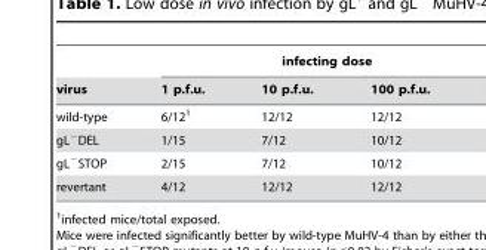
<table><thead><tr><td rowspan="2">virus</td><td colspan="3">infecting dose</td></tr><tr><td>1 p.f.u.</td><td>10 p.f.u.</td><td>100 p.f.u.</td></tr></thead><tbody><tr><td>wild-type</td><td>6/12<sup>1</sup></td><td>12/12</td><td>12/12</td></tr><tr><td>gL<sup>−</sup>DEL</td><td>1/15</td><td>7/12</td><td>10/12</td></tr><tr><td>gL<sup>−</sup>STOP</td><td>2/15</td><td>7/12</td><td>10/12</td></tr><tr><td>revertant</td><td>4/12</td><td>12/12</td><td>12/12</td></tr></tbody></table>